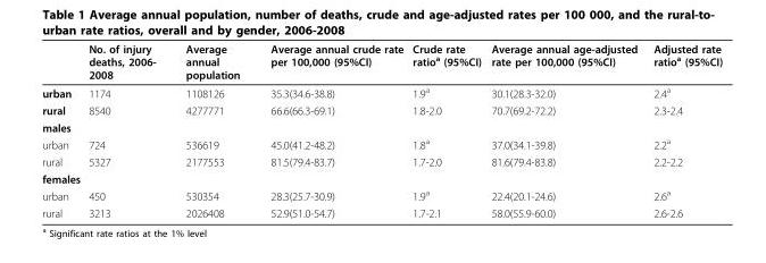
<table><thead><tr><td></td><td>No. of injury deaths, 2006- 2008</td><td>Average annual population</td><td>Average annual crude rate per 100,000 (95%CI)</td><td>Crude rate ratio<sup>a</sup> (95%CI)</td><td>Average annual age-adjusted rate per 100,000 (95%CI)</td><td>Adjusted rate ratio<sup>a</sup> (95%CI)</td></tr></thead><tbody><tr><td>urban</td><td>1174</td><td>1108126</td><td>35.3(34.6-38.8)</td><td>1.9<sup>a</sup></td><td>30.1(28.3-32.0)</td><td>2.4<sup>a</sup></td></tr><tr><td>rural</td><td>8540</td><td>4277771</td><td>66.6(66.3-69.1)</td><td>1.8-2.0</td><td>70.7(69.2-72.2)</td><td>2.3-2.4</td></tr><tr><td colspan="7">males</td></tr><tr><td>urban</td><td>724</td><td>536619</td><td>45.0(41.2-48.2)</td><td>1.8<sup>a</sup></td><td>37.0(34.1-39.8)</td><td>2.2<sup>a</sup></td></tr><tr><td>rural</td><td>5327</td><td>2177553</td><td>81.5(79.4-83.7)</td><td>1.7-2.0</td><td>81.6(79.4-83.8)</td><td>2.2-2.2</td></tr><tr><td colspan="7">females</td></tr><tr><td>urban</td><td>450</td><td>530354</td><td>28.3(25.7-30.9)</td><td>1.9<sup>a</sup></td><td>22.4(20.1-24.6)</td><td>2.6<sup>a</sup></td></tr><tr><td>rural</td><td>3213</td><td>2026408</td><td>52.9(51.0-54.7)</td><td>1.7-2.1</td><td>58.0(55.9-60.0)</td><td>2.6-2.6</td></tr></tbody></table>